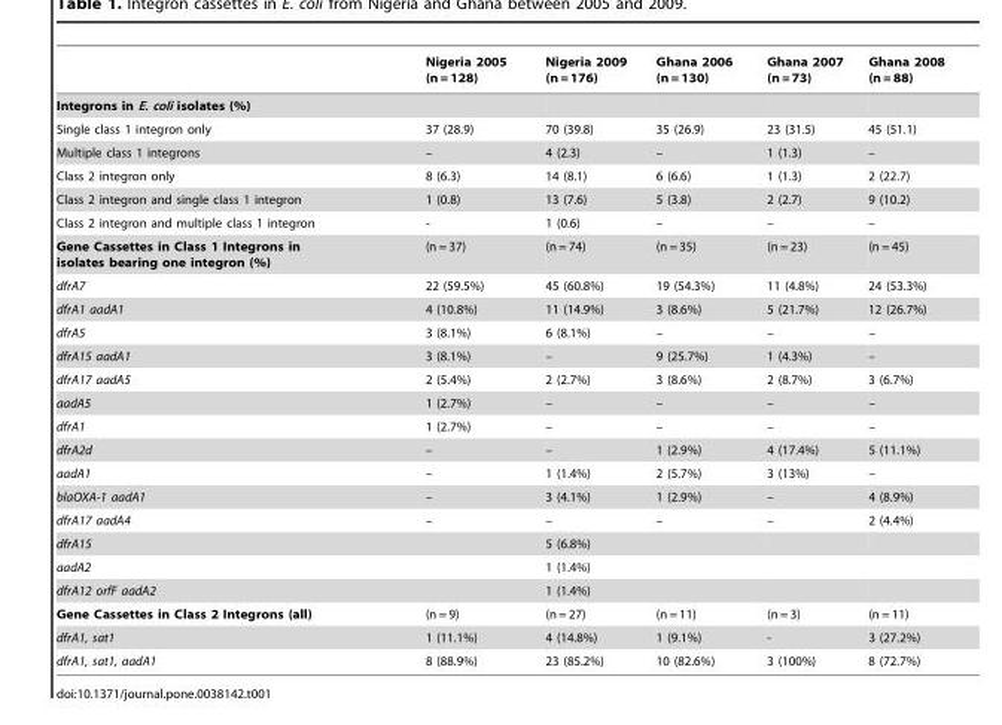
<table><thead><tr><td></td><td>Nigeria 2005 (n = 128)</td><td>Nigeria 2009 (n = 176)</td><td>Ghana 2006 (n = 130)</td><td>Ghana 2007 (n = 73)</td><td>Ghana 2008 (n = 88)</td></tr></thead><tbody><tr><td colspan="6">Integrons in E. coli isolates (%)</td></tr><tr><td>Single class 1 integron only</td><td>37 (28.9)</td><td>70 (39.8)</td><td>35 (26.9)</td><td>23 (31.5)</td><td>45 (51.1)</td></tr><tr><td>Multiple class 1 integrons</td><td>–</td><td>4 (2.3)</td><td>–</td><td>1 (1.3)</td><td>–</td></tr><tr><td>Class 2 integron only</td><td>8 (6.3)</td><td>14 (8.1)</td><td>6 (6.6)</td><td>1 (1.3)</td><td>2 (22.7)</td></tr><tr><td>Class 2 integron and single class 1 integron</td><td>1 (0.8)</td><td>13 (7.6)</td><td>5 (3.8)</td><td>2 (2.7)</td><td>9 (10.2)</td></tr><tr><td>Class 2 integron and multiple class 1 integron</td><td>-</td><td>1 (0.6)</td><td>–</td><td>–</td><td>–</td></tr><tr><td>Gene Cassettes in Class 1 Integrons in isolates bearing one integron (%)</td><td>(n = 37)</td><td>(n = 74)</td><td>(n = 35)</td><td>(n = 23)</td><td>(n = 45)</td></tr><tr><td>dfrA7</td><td>22 (59.5%)</td><td>45 (60.8%)</td><td>19 (54.3%)</td><td>11 (4.8%)</td><td>24 (53.3%)</td></tr><tr><td>dfrA1 aadA1</td><td>4 (10.8%)</td><td>11 (14.9%)</td><td>3 (8.6%)</td><td>5 (21.7%)</td><td>12 (26.7%)</td></tr><tr><td>dfrA5</td><td>3 (8.1%)</td><td>6 (8.1%)</td><td>–</td><td>–</td><td>–</td></tr><tr><td>dfrA15 aadA1</td><td>3 (8.1%)</td><td>–</td><td>9 (25.7%)</td><td>1 (4.3%)</td><td>–</td></tr><tr><td>dfrA17 aadA5</td><td>2 (5.4%)</td><td>2 (2.7%)</td><td>3 (8.6%)</td><td>2 (8.7%)</td><td>3 (6.7%)</td></tr><tr><td>aadA5</td><td>1 (2.7%)</td><td>–</td><td>–</td><td>–</td><td>–</td></tr><tr><td>dfrA1</td><td>1 (2.7%)</td><td>–</td><td>–</td><td>–</td><td>–</td></tr><tr><td>dfrA2d</td><td>–</td><td>–</td><td>1 (2.9%)</td><td>4 (17.4%)</td><td>5 (11.1%)</td></tr><tr><td>aadA1</td><td>–</td><td>1 (1.4%)</td><td>2 (5.7%)</td><td>3 (13%)</td><td>–</td></tr><tr><td>blaOXA-1 aadA1</td><td>–</td><td>3 (4.1%)</td><td>1 (2.9%)</td><td>–</td><td>4 (8.9%)</td></tr><tr><td>dfrA17 aadA4</td><td>–</td><td>–</td><td>–</td><td>–</td><td>2 (4.4%)</td></tr><tr><td>dfrA15</td><td></td><td>5 (6.8%)</td><td></td><td></td><td></td></tr><tr><td>aadA2</td><td></td><td>1 (1.4%)</td><td></td><td></td><td></td></tr><tr><td>dfrA12 orfF aadA2</td><td></td><td>1 (1.4%)</td><td></td><td></td><td></td></tr><tr><td>Gene Cassettes in Class 2 Integrons (all)</td><td>(n = 9)</td><td>(n = 27)</td><td>(n = 11)</td><td>(n = 3)</td><td>(n = 11)</td></tr><tr><td>dfrA1, sat1</td><td>1 (11.1%)</td><td>4 (14.8%)</td><td>1 (9.1%)</td><td>-</td><td>3 (27.2%)</td></tr><tr><td>dfrA1, sat1, aadA1</td><td>8 (88.9%)</td><td>23 (85.2%)</td><td>10 (82.6%)</td><td>3 (100%)</td><td>8 (72.7%)</td></tr></tbody></table>